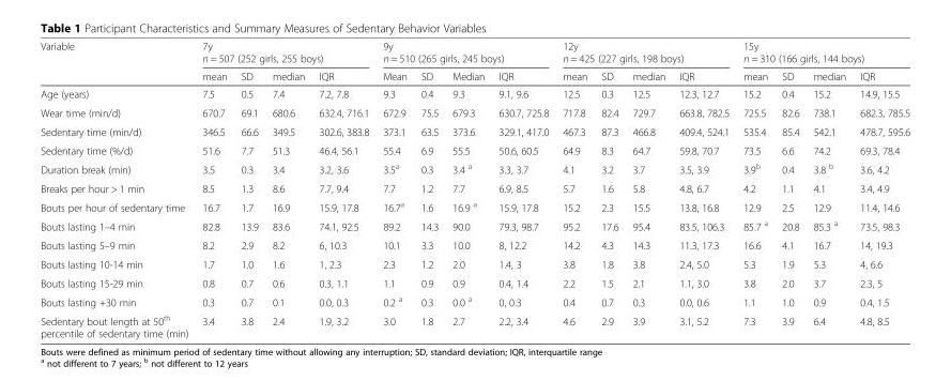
<table><thead><tr><td rowspan="2">Variable</td><td colspan="4">7y n = 507 (252 girls, 255 boys)</td><td colspan="4">9y n = 510 (265 girls, 245 boys)</td><td colspan="4">12y n = 425 (227 girls, 198 boys)</td><td colspan="4">15y n = 310 (166 girls, 144 boys)</td></tr><tr><td>mean</td><td>SD</td><td>median</td><td>IQR</td><td>Mean</td><td>SD</td><td>Median</td><td>IQR</td><td>mean</td><td>SD</td><td>median</td><td>IQR</td><td>mean</td><td>SD</td><td>median</td><td>IQR</td></tr></thead><tbody><tr><td>Age (years)</td><td>7.5</td><td>0.5</td><td>7.4</td><td>7.2, 7.8</td><td>9.3</td><td>0.4</td><td>9.3</td><td>9.1, 9.6</td><td>12.5</td><td>0.3</td><td>12.5</td><td>12.3, 12.7</td><td>15.2</td><td>0.4</td><td>15.2</td><td>14.9, 15.5</td></tr><tr><td>Wear time (min/d)</td><td>670.7</td><td>69.1</td><td>680.6</td><td>632.4, 716.1</td><td>672.9</td><td>75.5</td><td>679.3</td><td>630.7, 725.8</td><td>717.8</td><td>82.4</td><td>729.7</td><td>663.8, 782.5</td><td>725.5</td><td>82.6</td><td>738.1</td><td>682.3, 785.5</td></tr><tr><td>Sedentary time (min/d)</td><td>346.5</td><td>66.6</td><td>349.5</td><td>302.6, 383.8</td><td>373.1</td><td>63.5</td><td>373.6</td><td>329.1, 417.0</td><td>467.3</td><td>87.3</td><td>466.8</td><td>409.4, 524.1</td><td>535.4</td><td>85.4</td><td>542.1</td><td>478.7, 595.6</td></tr><tr><td>Sedentary time (%/d)</td><td>51.6</td><td>7.7</td><td>51.3</td><td>46.4, 56.1</td><td>55.4</td><td>6.9</td><td>55.5</td><td>50.6, 60.5</td><td>64.9</td><td>8.3</td><td>64.7</td><td>59.8, 70.7</td><td>73.5</td><td>6.6</td><td>74.2</td><td>69.3, 78.4</td></tr><tr><td>Duration break (min)</td><td>3.5</td><td>0.3</td><td>3.4</td><td>3.2, 3.6</td><td>3.5<sup>a</sup></td><td>0.3</td><td>3.4 <sup>a</sup></td><td>3.3, 3.7</td><td>4.1</td><td>3.2</td><td>3.7</td><td>3.5, 3.9</td><td>3.9<sup>b</sup></td><td>0.4</td><td>3.8 <sup>b</sup></td><td>3.6, 4.2</td></tr><tr><td>Breaks per hour &gt; 1 min</td><td>8.5</td><td>1.3</td><td>8.6</td><td>7.7, 9.4</td><td>7.7</td><td>1.2</td><td>7.7</td><td>6.9, 8.5</td><td>5.7</td><td>1.6</td><td>5.8</td><td>4.8, 6.7</td><td>4.2</td><td>1.1</td><td>4.1</td><td>3.4, 4.9</td></tr><tr><td>Bouts per hour of sedentary time</td><td>16.7</td><td>1.7</td><td>16.9</td><td>15.9, 17.8</td><td>16.7<sup>a</sup></td><td>1.6</td><td>16.9 <sup>a</sup></td><td>15.9, 17.8</td><td>15.2</td><td>2.3</td><td>15.5</td><td>13.8, 16.8</td><td>12.9</td><td>2.5</td><td>12.9</td><td>11.4, 14.6</td></tr><tr><td>Bouts lasting 1–4 min</td><td>82.8</td><td>13.9</td><td>83.6</td><td>74.1, 92.5</td><td>89.2</td><td>14.3</td><td>90.0</td><td>79.3, 98.7</td><td>95.2</td><td>17.6</td><td>95.4</td><td>83.5, 106.3</td><td>85.7 <sup>a</sup></td><td>20.8</td><td>85.3 <sup>a</sup></td><td>73.5, 98.3</td></tr><tr><td>Bouts lasting 5–9 min</td><td>8.2</td><td>2.9</td><td>8.2</td><td>6, 10.3</td><td>10.1</td><td>3.3</td><td>10.0</td><td>8, 12.2</td><td>14.2</td><td>4.3</td><td>14.3</td><td>11.3, 17.3</td><td>16.6</td><td>4.1</td><td>16.7</td><td>14, 19.3</td></tr><tr><td>Bouts lasting 10-14 min</td><td>1.7</td><td>1.0</td><td>1.6</td><td>1, 2.3</td><td>2.3</td><td>1.2</td><td>2.0</td><td>1.4, 3</td><td>3.8</td><td>1.8</td><td>3.8</td><td>2.4, 5.0</td><td>5.3</td><td>1.9</td><td>5.3</td><td>4, 6.6</td></tr><tr><td>Bouts lasting 15-29 min</td><td>0.8</td><td>0.7</td><td>0.6</td><td>0.3, 1.1</td><td>1.1</td><td>0.9</td><td>0.9</td><td>0.4, 1.4</td><td>2.2</td><td>1.5</td><td>2.1</td><td>1.1, 3.0</td><td>3.8</td><td>2.0</td><td>3.7</td><td>2.3, 5</td></tr><tr><td>Bouts lasting +30 min</td><td>0.3</td><td>0.7</td><td>0.1</td><td>0.0, 0.3</td><td>0.2 <sup>a</sup></td><td>0.3</td><td>0.0 <sup>a</sup></td><td>0, 0.3</td><td>0.4</td><td>0.7</td><td>0.3</td><td>0.0, 0.6</td><td>1.1</td><td>1.0</td><td>0.9</td><td>0.4, 1.5</td></tr><tr><td>Sedentary bout length at 50<sup>th</sup> percentile of sedentary time (min)</td><td>3.4</td><td>3.8</td><td>2.4</td><td>1.9, 3.2</td><td>3.0</td><td>1.8</td><td>2.7</td><td>2.2, 3.4</td><td>4.6</td><td>2.9</td><td>3.9</td><td>3.1, 5.2</td><td>7.3</td><td>3.9</td><td>6.4</td><td>4.8, 8.5</td></tr></tbody></table>